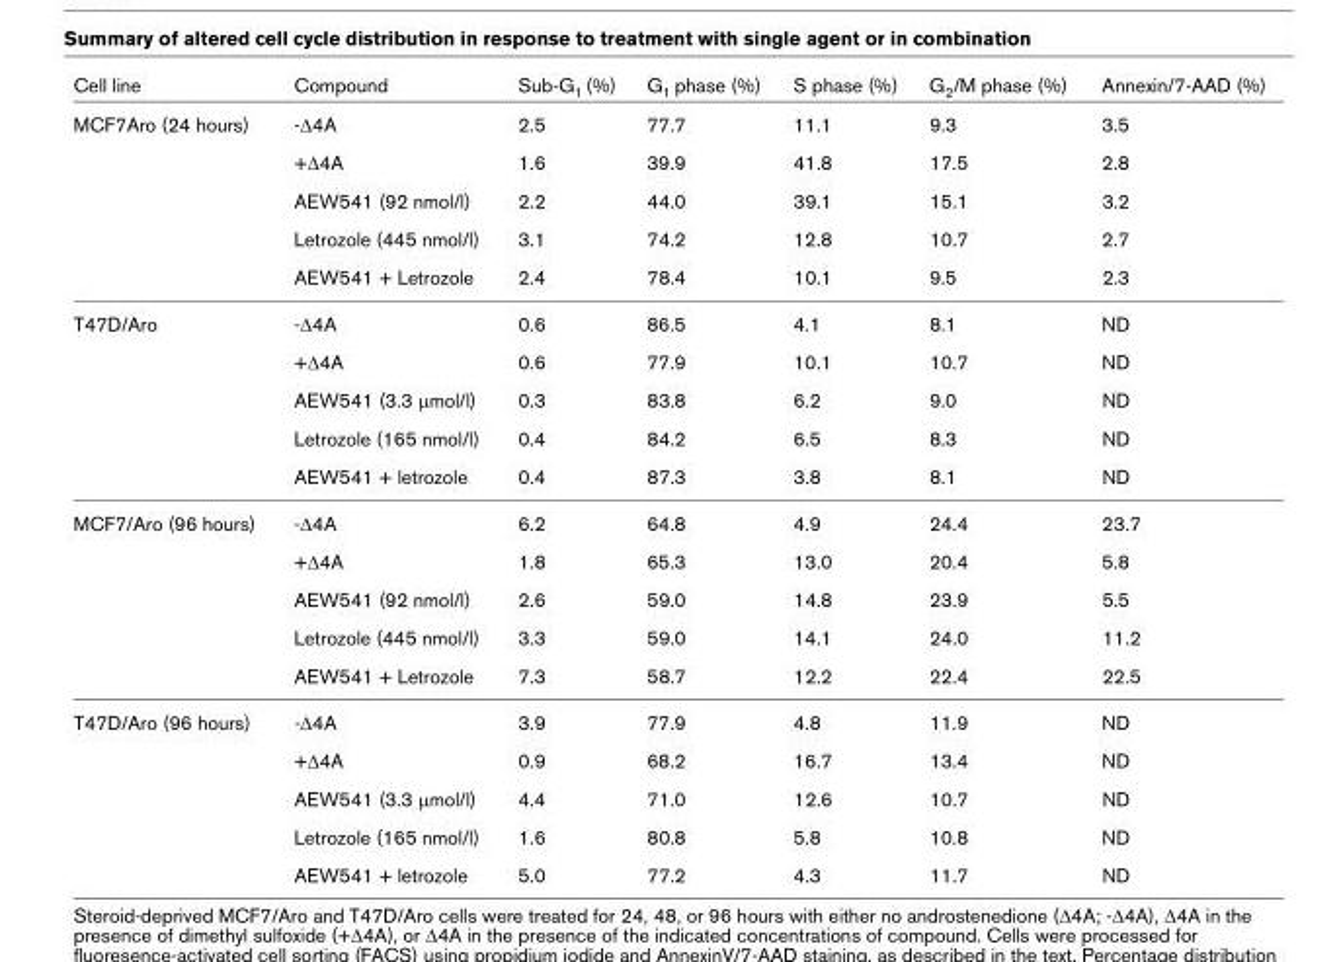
<table><thead><tr><td>Cell line</td><td>Compound</td><td>Sub-G<sub>1</sub> (%)</td><td>G<sub>1</sub> phase (%)</td><td>S phase (%)</td><td>G<sub>2</sub>/M phase (%)</td><td>Annexin/7-AAD (%)</td></tr></thead><tbody><tr><td rowspan="5">MCF7Aro (24 hours)</td><td>-Δ4A</td><td>2.5</td><td>77.7</td><td>11.1</td><td>9.3</td><td>3.5</td></tr><tr><td>+Δ4A</td><td>1.6</td><td>39.9</td><td>41.8</td><td>17.5</td><td>2.8</td></tr><tr><td>AEW541 (92 nmol/l)</td><td>2.2</td><td>44.0</td><td>39.1</td><td>15.1</td><td>3.2</td></tr><tr><td>Letrozole (445 nmol/l)</td><td>3.1</td><td>74.2</td><td>12.8</td><td>10.7</td><td>2.7</td></tr><tr><td>AEW541 + Letrozole</td><td>2.4</td><td>78.4</td><td>10.1</td><td>9.5</td><td>2.3</td></tr><tr><td rowspan="5">T47D/Aro</td><td>-Δ4A</td><td>0.6</td><td>86.5</td><td>4.1</td><td>8.1</td><td>ND</td></tr><tr><td>+Δ4A</td><td>0.6</td><td>77.9</td><td>10.1</td><td>10.7</td><td>ND</td></tr><tr><td>AEW541 (3.3 μmol/l)</td><td>0.3</td><td>83.8</td><td>6.2</td><td>9.0</td><td>ND</td></tr><tr><td>Letrozole (165 nmol/l)</td><td>0.4</td><td>84.2</td><td>6.5</td><td>8.3</td><td>ND</td></tr><tr><td>AEW541 + letrozole</td><td>0.4</td><td>87.3</td><td>3.8</td><td>8.1</td><td>ND</td></tr><tr><td rowspan="5">MCF7/Aro (96 hours)</td><td>-Δ4A</td><td>6.2</td><td>64.8</td><td>4.9</td><td>24.4</td><td>23.7</td></tr><tr><td>+Δ4A</td><td>1.8</td><td>65.3</td><td>13.0</td><td>20.4</td><td>5.8</td></tr><tr><td>AEW541 (92 nmol/l)</td><td>2.6</td><td>59.0</td><td>14.8</td><td>23.9</td><td>5.5</td></tr><tr><td>Letrozole (445 nmol/l)</td><td>3.3</td><td>59.0</td><td>14.1</td><td>24.0</td><td>11.2</td></tr><tr><td>AEW541 + Letrozole</td><td>7.3</td><td>58.7</td><td>12.2</td><td>22.4</td><td>22.5</td></tr><tr><td rowspan="5">T47D/Aro (96 hours)</td><td>-Δ4A</td><td>3.9</td><td>77.9</td><td>4.8</td><td>11.9</td><td>ND</td></tr><tr><td>+Δ4A</td><td>0.9</td><td>68.2</td><td>16.7</td><td>13.4</td><td>ND</td></tr><tr><td>AEW541 (3.3 μmol/l)</td><td>4.4</td><td>71.0</td><td>12.6</td><td>10.7</td><td>ND</td></tr><tr><td>Letrozole (165 nmol/l)</td><td>1.6</td><td>80.8</td><td>5.8</td><td>10.8</td><td>ND</td></tr><tr><td>AEW541 + letrozole</td><td>5.0</td><td>77.2</td><td>4.3</td><td>11.7</td><td>ND</td></tr></tbody></table>